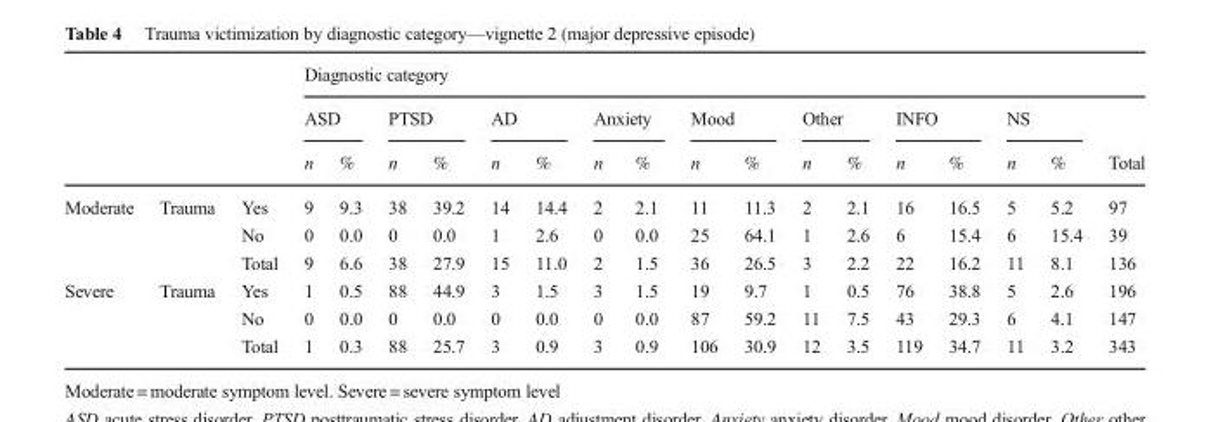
<table><thead><tr><td rowspan="3"></td><td rowspan="3"></td><td rowspan="3"></td><td colspan="17">Diagnostic category</td></tr><tr><td colspan="2">ASD</td><td colspan="2">PTSD</td><td colspan="2">AD</td><td colspan="2">Anxiety</td><td colspan="2">Mood</td><td colspan="2">Other</td><td colspan="2">INFO</td><td colspan="2">NS</td><td rowspan="2">Total</td></tr><tr><td>n</td><td>%</td><td>n</td><td>%</td><td>n</td><td>%</td><td>n</td><td>%</td><td>n</td><td>%</td><td>n</td><td>%</td><td>n</td><td>%</td><td>n</td><td>%</td></tr></thead><tbody><tr><td rowspan="3">Moderate</td><td rowspan="2">Trauma</td><td>Yes</td><td>9</td><td>9.3</td><td>38</td><td>39.2</td><td>14</td><td>14.4</td><td>2</td><td>2.1</td><td>11</td><td>11.3</td><td>2</td><td>2.1</td><td>16</td><td>16.5</td><td>5</td><td>5.2</td><td>97</td></tr><tr><td>No</td><td>0</td><td>0.0</td><td>0</td><td>0.0</td><td>1</td><td>2.6</td><td>0</td><td>0.0</td><td>25</td><td>64.1</td><td>1</td><td>2.6</td><td>6</td><td>15.4</td><td>6</td><td>15.4</td><td>39</td></tr><tr><td></td><td>Total</td><td>9</td><td>6.6</td><td>38</td><td>27.9</td><td>15</td><td>11.0</td><td>2</td><td>1.5</td><td>36</td><td>26.5</td><td>3</td><td>2.2</td><td>22</td><td>16.2</td><td>11</td><td>8.1</td><td>136</td></tr><tr><td rowspan="3">Severe</td><td rowspan="2">Trauma</td><td>Yes</td><td>1</td><td>0.5</td><td>88</td><td>44.9</td><td>3</td><td>1.5</td><td>3</td><td>1.5</td><td>19</td><td>9.7</td><td>1</td><td>0.5</td><td>76</td><td>38.8</td><td>5</td><td>2.6</td><td>196</td></tr><tr><td>No</td><td>0</td><td>0.0</td><td>0</td><td>0.0</td><td>0</td><td>0.0</td><td>0</td><td>0.0</td><td>87</td><td>59.2</td><td>11</td><td>7.5</td><td>43</td><td>29.3</td><td>6</td><td>4.1</td><td>147</td></tr><tr><td></td><td>Total</td><td>1</td><td>0.3</td><td>88</td><td>25.7</td><td>3</td><td>0.9</td><td>3</td><td>0.9</td><td>106</td><td>30.9</td><td>12</td><td>3.5</td><td>119</td><td>34.7</td><td>11</td><td>3.2</td><td>343</td></tr></tbody></table>